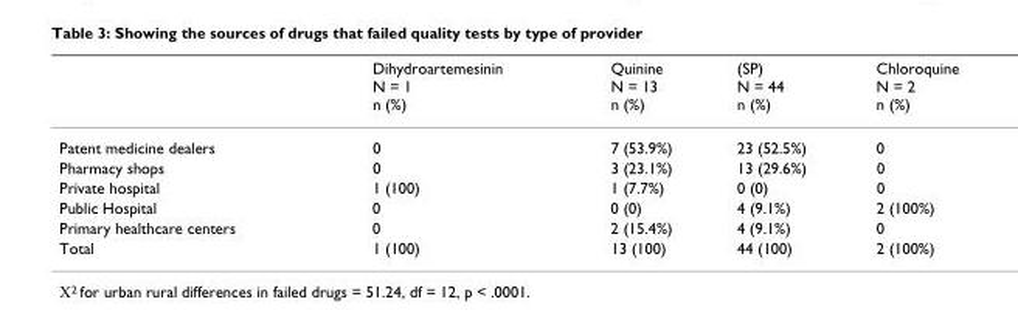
<table><thead><tr><td></td><td>Dihydroartemesinin N = 1 n (%)</td><td>Quinine N = 13 n (%)</td><td>(SP) N = 44 n (%)</td><td>Chloroquine N = 2 n (%)</td></tr></thead><tbody><tr><td>Patent medicine dealers</td><td>0</td><td>7 (53.9%)</td><td>23 (52.5%)</td><td>0</td></tr><tr><td>Pharmacy shops</td><td>0</td><td>3 (23.1%)</td><td>13 (29.6%)</td><td>0</td></tr><tr><td>Private hospital</td><td>1 (100)</td><td>1 (7.7%)</td><td>0 (0)</td><td>0</td></tr><tr><td>Public Hospital</td><td>0</td><td>0 (0)</td><td>4 (9.1%)</td><td>2 (100%)</td></tr><tr><td>Primary healthcare centers</td><td>0</td><td>2 (15.4%)</td><td>4 (9.1%)</td><td>0</td></tr><tr><td>Total</td><td>1 (100)</td><td>13 (100)</td><td>44 (100)</td><td>2 (100%)</td></tr></tbody></table>